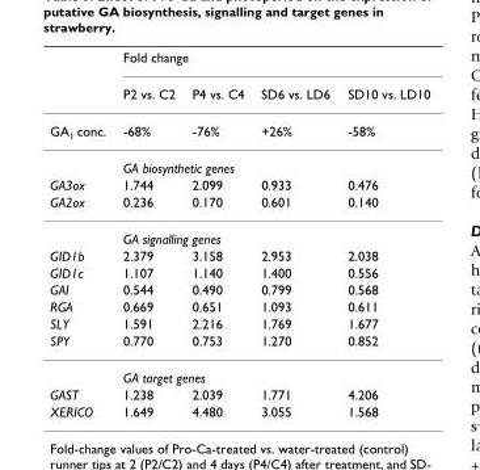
<table><thead><tr><td rowspan="2"></td><td colspan="4">Fold change</td></tr><tr><td>P2 vs. C2</td><td>P4 vs. C4</td><td>SD6 vs. LD6</td><td>SD10 vs. LD10</td></tr></thead><tbody><tr><td rowspan="2">GA<sub>1</sub> conc.</td><td>-68%</td><td>-76%</td><td>+26%</td><td>-58%</td></tr><tr><td colspan="4">GA biosynthetic genes</td></tr><tr><td>GA3ox</td><td>1.744</td><td>2.099</td><td>0.933</td><td>0.476</td></tr><tr><td rowspan="2">GA2ox</td><td>0.236</td><td>0.170</td><td>0.601</td><td>0.140</td></tr><tr><td colspan="4">GA signalling genes</td></tr><tr><td>GID1b</td><td>2.379</td><td>3.158</td><td>2.953</td><td>2.038</td></tr><tr><td>GID1c</td><td>1.107</td><td>1.140</td><td>1.400</td><td>0.556</td></tr><tr><td>GAI</td><td>0.544</td><td>0.490</td><td>0.799</td><td>0.568</td></tr><tr><td>RGA</td><td>0.669</td><td>0.651</td><td>1.093</td><td>0.611</td></tr><tr><td>SLY</td><td>1.591</td><td>2.216</td><td>1.769</td><td>1.677</td></tr><tr><td rowspan="2">SPY</td><td>0.770</td><td>0.753</td><td>1.270</td><td>0.852</td></tr><tr><td colspan="4">GA target genes</td></tr><tr><td>GAST</td><td>1.238</td><td>2.039</td><td>1.771</td><td>4.206</td></tr><tr><td>XERICO</td><td>1.649</td><td>4.480</td><td>3.055</td><td>1.568</td></tr></tbody></table>